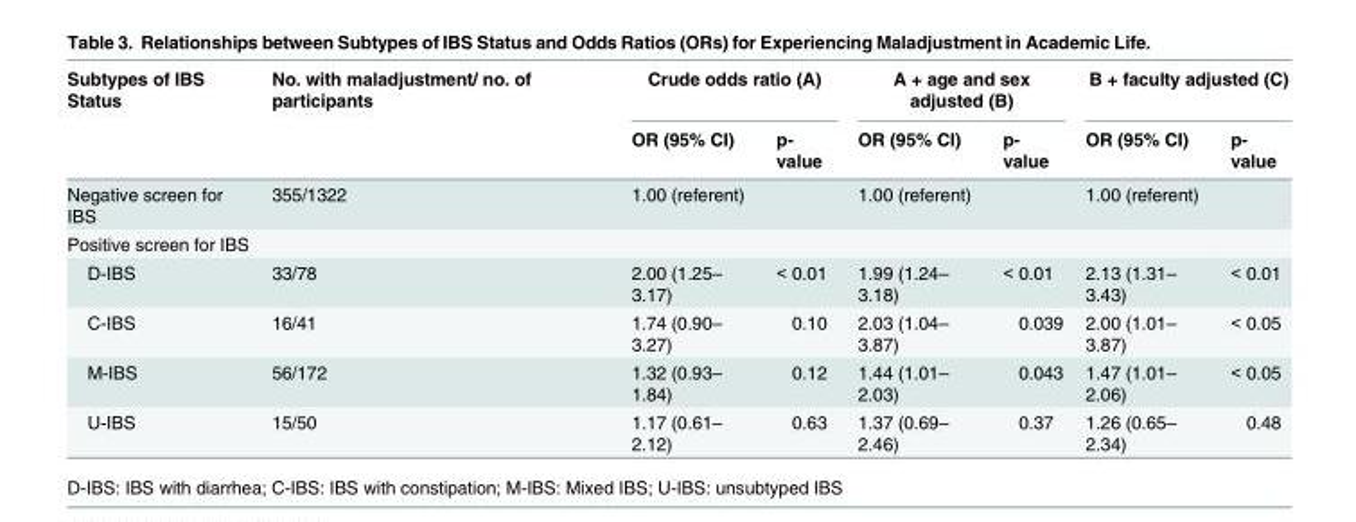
<table><thead><tr><td rowspan="2">Subtypes of IBS Status</td><td rowspan="2">No. with maladjustment/ no. of participants</td><td colspan="2">Crude odds ratio (A)</td><td colspan="2">A + age and sex adjusted (B)</td><td colspan="2">B + faculty adjusted (C)</td></tr><tr><td>OR (95% CI)</td><td>p- value</td><td>OR (95% CI)</td><td>p- value</td><td>OR (95% CI)</td><td>p- value</td></tr></thead><tbody><tr><td>Negative screen for IBS</td><td>355/1322</td><td>1.00 (referent)</td><td></td><td>1.00 (referent)</td><td></td><td>1.00 (referent)</td><td></td></tr><tr><td colspan="8">Positive screen for IBS</td></tr><tr><td>D-IBS</td><td>33/78</td><td>2.00 (1.25– 3.17)</td><td>&lt; 0.01</td><td>1.99 (1.24– 3.18)</td><td>&lt; 0.01</td><td>2.13 (1.31– 3.43)</td><td>&lt; 0.01</td></tr><tr><td>C-IBS</td><td>16/41</td><td>1.74 (0.90– 3.27)</td><td>0.10</td><td>2.03 (1.04– 3.87)</td><td>0.039</td><td>2.00 (1.01– 3.87)</td><td>&lt; 0.05</td></tr><tr><td>M-IBS</td><td>56/172</td><td>1.32 (0.93– 1.84)</td><td>0.12</td><td>1.44 (1.01– 2.03)</td><td>0.043</td><td>1.47 (1.01– 2.06)</td><td>&lt; 0.05</td></tr><tr><td>U-IBS</td><td>15/50</td><td>1.17 (0.61– 2.12)</td><td>0.63</td><td>1.37 (0.69– 2.46)</td><td>0.37</td><td>1.26 (0.65– 2.34)</td><td>0.48</td></tr></tbody></table>